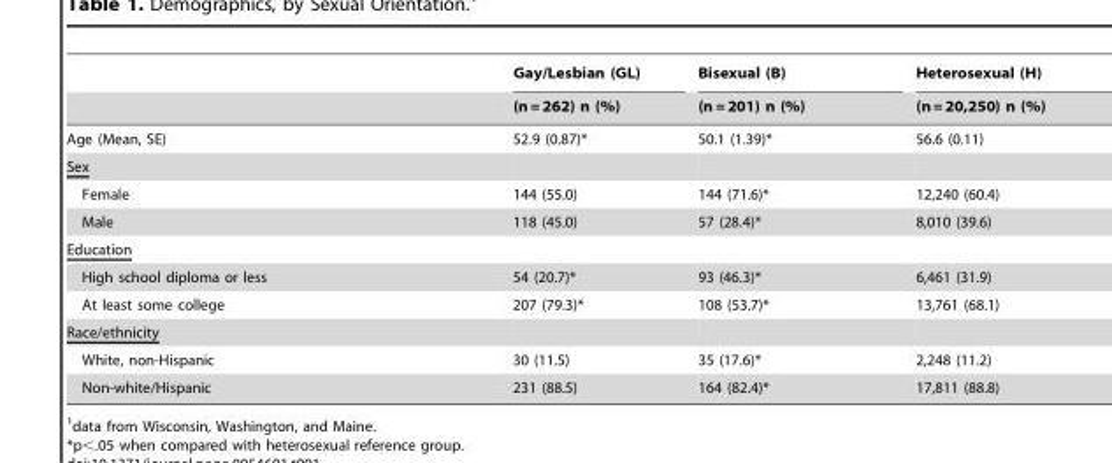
<table><thead><tr><td rowspan="2"></td><td rowspan="2">Gay/Lesbian (GL) (n = 262) n (%)</td><td rowspan="2">Bisexual (B) (n = 201) n (%)</td><td rowspan="2">Heterosexual (H) (n = 20,250) n (%)</td></tr><tr></tr></thead><tbody><tr><td>Age (Mean, SE)</td><td>52.9 (0.87)*</td><td>50.1 (1.39)*</td><td>56.6 (0.11)</td></tr><tr><td colspan="4">Sex</td></tr><tr><td>Female</td><td>144 (55.0)</td><td>144 (71.6)*</td><td>12,240 (60.4)</td></tr><tr><td>Male</td><td>118 (45.0)</td><td>57 (28.4)*</td><td>8,010 (39.6)</td></tr><tr><td colspan="4">Education</td></tr><tr><td>High school diploma or less</td><td>54 (20.7)*</td><td>93 (46.3)*</td><td>6,461 (31.9)</td></tr><tr><td>At least some college</td><td>207 (79.3)*</td><td>108 (53.7)*</td><td>13,761 (68.1)</td></tr><tr><td colspan="4">Race/ethnicity</td></tr><tr><td>White, non-Hispanic</td><td>30 (11.5)</td><td>35 (17.6)*</td><td>2,248 (11.2)</td></tr><tr><td>Non-white/Hispanic</td><td>231 (88.5)</td><td>164 (82.4)*</td><td>17,811 (88.8)</td></tr></tbody></table>